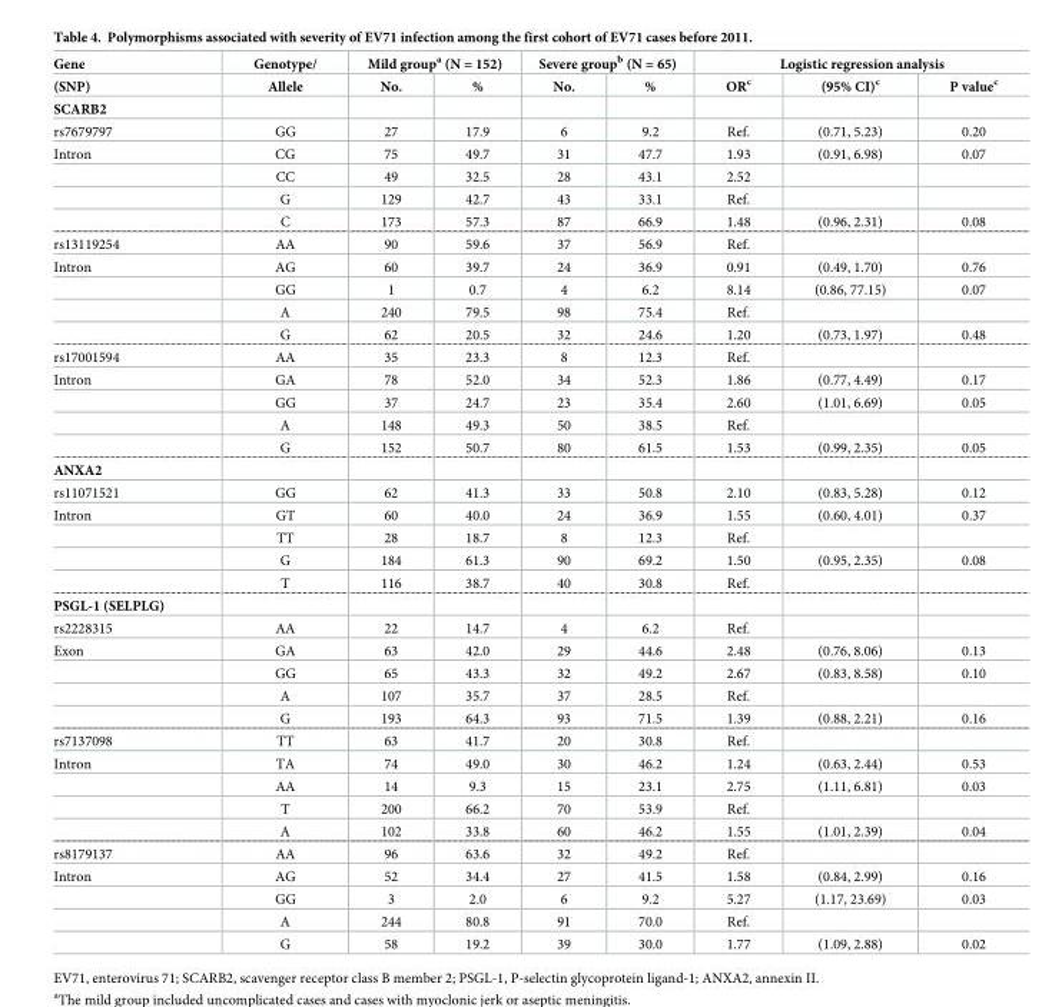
<table><thead><tr><td rowspan="2">Gene (SNP)</td><td rowspan="2">Genotype/ Allele</td><td colspan="2">Mild group<sup>a</sup> (N = 152)</td><td colspan="2">Severe group<sup>b</sup> (N = 65)</td><td colspan="3">Logistic regression analysis</td></tr><tr><td>No.</td><td>%</td><td>No.</td><td>%</td><td>OR<sup>c</sup></td><td>(95% CI)<sup>c</sup></td><td>P value<sup>c</sup></td></tr></thead><tbody><tr><td colspan="9">SCARB2</td></tr><tr><td>rs7679797</td><td>GG</td><td>27</td><td>17.9</td><td>6</td><td>9.2</td><td>Ref.</td><td>(0.71, 5.23)</td><td>0.20</td></tr><tr><td rowspan="4">Intron</td><td>CG</td><td>75</td><td>49.7</td><td>31</td><td>47.7</td><td>1.93</td><td>(0.91, 6.98)</td><td>0.07</td></tr><tr><td>CC</td><td>49</td><td>32.5</td><td>28</td><td>43.1</td><td>2.52</td><td></td><td></td></tr><tr><td>G</td><td>129</td><td>42.7</td><td>43</td><td>33.1</td><td>Ref.</td><td></td><td></td></tr><tr><td>C</td><td>173</td><td>57.3</td><td>87</td><td>66.9</td><td>1.48</td><td>(0.96, 2.31)</td><td>0.08</td></tr><tr><td>rs13119254</td><td>AA</td><td>90</td><td>59.6</td><td>37</td><td>56.9</td><td>Ref.</td><td></td><td></td></tr><tr><td rowspan="4">Intron</td><td>AG</td><td>60</td><td>39.7</td><td>24</td><td>36.9</td><td>0.91</td><td>(0.49, 1.70)</td><td>0.76</td></tr><tr><td>GG</td><td>1</td><td>0.7</td><td>4</td><td>6.2</td><td>8.14</td><td>(0.86, 77.15)</td><td>0.07</td></tr><tr><td>A</td><td>240</td><td>79.5</td><td>98</td><td>75.4</td><td>Ref.</td><td></td><td></td></tr><tr><td>G</td><td>62</td><td>20.5</td><td>32</td><td>24.6</td><td>1.20</td><td>(0.73, 1.97)</td><td>0.48</td></tr><tr><td>rs17001594</td><td>AA</td><td>35</td><td>23.3</td><td>8</td><td>12.3</td><td>Ref.</td><td></td><td></td></tr><tr><td rowspan="4">Intron</td><td>GA</td><td>78</td><td>52.0</td><td>34</td><td>52.3</td><td>1.86</td><td>(0.77, 4.49)</td><td>0.17</td></tr><tr><td>GG</td><td>37</td><td>24.7</td><td>23</td><td>35.4</td><td>2.60</td><td>(1.01, 6.69)</td><td>0.05</td></tr><tr><td>A</td><td>148</td><td>49.3</td><td>50</td><td>38.5</td><td>Ref.</td><td></td><td></td></tr><tr><td>G</td><td>152</td><td>50.7</td><td>80</td><td>61.5</td><td>1.53</td><td>(0.99, 2.35)</td><td>0.05</td></tr><tr><td colspan="9">ANXA2</td></tr><tr><td>rs11071521</td><td>GG</td><td>62</td><td>41.3</td><td>33</td><td>50.8</td><td>2.10</td><td>(0.83, 5.28)</td><td>0.12</td></tr><tr><td rowspan="4">Intron</td><td>GT</td><td>60</td><td>40.0</td><td>24</td><td>36.9</td><td>1.55</td><td>(0.60, 4.01)</td><td>0.37</td></tr><tr><td>TT</td><td>28</td><td>18.7</td><td>8</td><td>12.3</td><td>Ref.</td><td></td><td></td></tr><tr><td>G</td><td>184</td><td>61.3</td><td>90</td><td>69.2</td><td>1.50</td><td>(0.95, 2.35)</td><td>0.08</td></tr><tr><td>T</td><td>116</td><td>38.7</td><td>40</td><td>30.8</td><td>Ref.</td><td></td><td></td></tr><tr><td colspan="9">PSGL-1 (SELPLG)</td></tr><tr><td>rs2228315</td><td>AA</td><td>22</td><td>14.7</td><td>4</td><td>6.2</td><td>Ref.</td><td></td><td></td></tr><tr><td rowspan="4">Exon</td><td>GA</td><td>63</td><td>42.0</td><td>29</td><td>44.6</td><td>2.48</td><td>(0.76, 8.06)</td><td>0.13</td></tr><tr><td>GG</td><td>65</td><td>43.3</td><td>32</td><td>49.2</td><td>2.67</td><td>(0.83, 8.58)</td><td>0.10</td></tr><tr><td>A</td><td>107</td><td>35.7</td><td>37</td><td>28.5</td><td>Ref.</td><td></td><td></td></tr><tr><td>G</td><td>193</td><td>64.3</td><td>93</td><td>71.5</td><td>1.39</td><td>(0.88, 2.21)</td><td>0.16</td></tr><tr><td>rs7137098</td><td>TT</td><td>63</td><td>41.7</td><td>20</td><td>30.8</td><td>Ref.</td><td></td><td></td></tr><tr><td rowspan="4">Intron</td><td>TA</td><td>74</td><td>49.0</td><td>30</td><td>46.2</td><td>1.24</td><td>(0.63, 2.44)</td><td>0.53</td></tr><tr><td>AA</td><td>14</td><td>9.3</td><td>15</td><td>23.1</td><td>2.75</td><td>(1.11, 6.81)</td><td>0.03</td></tr><tr><td>T</td><td>200</td><td>66.2</td><td>70</td><td>53.9</td><td>Ref.</td><td></td><td></td></tr><tr><td>A</td><td>102</td><td>33.8</td><td>60</td><td>46.2</td><td>1.55</td><td>(1.01, 2.39)</td><td>0.04</td></tr><tr><td>rs8179137</td><td>AA</td><td>96</td><td>63.6</td><td>32</td><td>49.2</td><td>Ref.</td><td></td><td></td></tr><tr><td rowspan="4">Intron</td><td>AG</td><td>52</td><td>34.4</td><td>27</td><td>41.5</td><td>1.58</td><td>(0.84, 2.99)</td><td>0.16</td></tr><tr><td>GG</td><td>3</td><td>2.0</td><td>6</td><td>9.2</td><td>5.27</td><td>(1.17, 23.69)</td><td>0.03</td></tr><tr><td>A</td><td>244</td><td>80.8</td><td>91</td><td>70.0</td><td>Ref.</td><td></td><td></td></tr><tr><td>G</td><td>58</td><td>19.2</td><td>39</td><td>30.0</td><td>1.77</td><td>(1.09, 2.88)</td><td>0.02</td></tr></tbody></table>